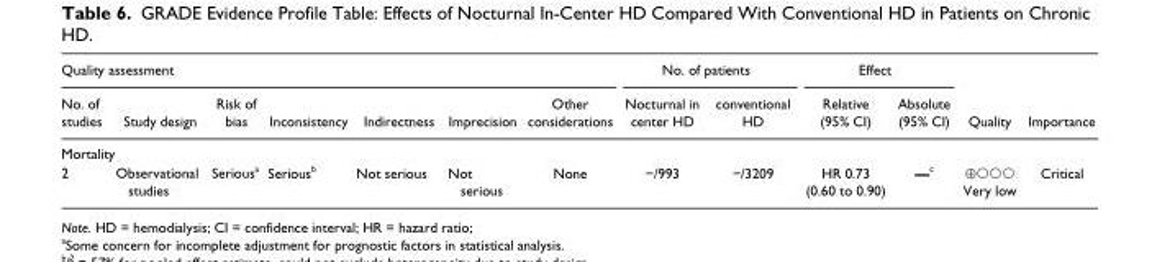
<table><thead><tr><td colspan="7">Quality assessment</td><td colspan="2">No. of patients</td><td colspan="2">Effect</td><td rowspan="2">Quality</td><td rowspan="2">Importance</td></tr><tr><td>No. of studies</td><td>Study design</td><td>Risk of bias</td><td>Inconsistency</td><td>Indirectness</td><td>Imprecision</td><td>Other considerations</td><td>Nocturnal in center HD</td><td>conventional HD</td><td>Relative (95% CI)</td><td>Absolute (95% CI)</td></tr></thead><tbody><tr><td colspan="13">Mortality</td></tr><tr><td>2</td><td>Observational studies</td><td>Serious<sup>a</sup></td><td>Serious<sup>b</sup></td><td>Not serious</td><td>Not serious</td><td>None</td><td>−/993</td><td>−/3209</td><td>HR 0.73 (0.60 to 0.90)</td><td>—<sup>c</sup></td><td>⊕⚪⚪⚪ Very low</td><td>Critical</td></tr></tbody></table>